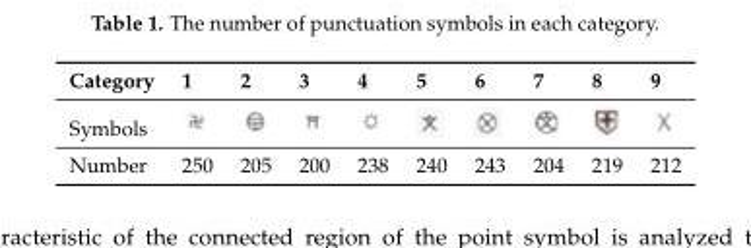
<table><thead><tr><td>Category</td><td>1</td><td>2</td><td>3</td><td>4</td><td>5</td><td>6</td><td>7</td><td>8</td><td>9</td></tr></thead><tbody><tr><td colspan="10">Symbols</td></tr><tr><td>Number</td><td>250</td><td>205</td><td>200</td><td>238</td><td>240</td><td>243</td><td>204</td><td>219</td><td>212</td></tr></tbody></table>